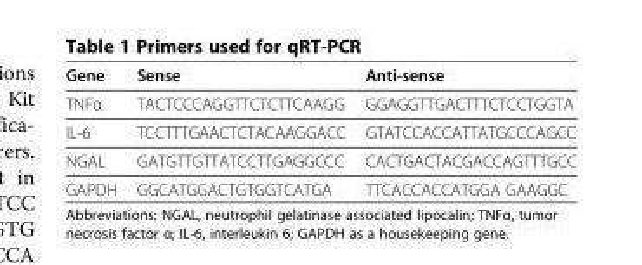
<table><thead><tr><td>Gene</td><td>Sense</td><td>Anti-sense</td></tr></thead><tbody><tr><td>TNFα</td><td>TACTCCCAGGTTCTCTTCAAGG</td><td>GGAGGTTGACTTTCTCCTGGTA</td></tr><tr><td>IL-6</td><td>TCCTTTGAACTCTACAAGGACC</td><td>GTATCCACCATTATGCCCAGCC</td></tr><tr><td>NGAL</td><td>GATGTTGTTATCCTTGAGGCCC</td><td>CACTGACTACGACCAGTTTGCC</td></tr><tr><td>GAPDH</td><td>GGCATGGACTGTGGTCATGA</td><td>TTCACCACCATGGA GAAGGC</td></tr></tbody></table>